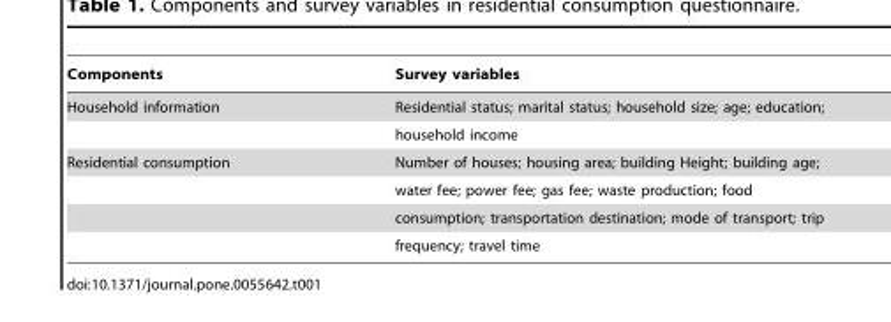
<table><thead><tr><td>Components</td><td>Survey variables</td></tr></thead><tbody><tr><td rowspan="2">Household information</td><td>Residential status; marital status; household size; age; education;</td></tr><tr><td>household income</td></tr><tr><td rowspan="4">Residential consumption</td><td>Number of houses; housing area; building Height; building age;</td></tr><tr><td>water fee; power fee; gas fee; waste production; food</td></tr><tr><td>consumption; transportation destination; mode of transport; trip</td></tr><tr><td>frequency; travel time</td></tr></tbody></table>